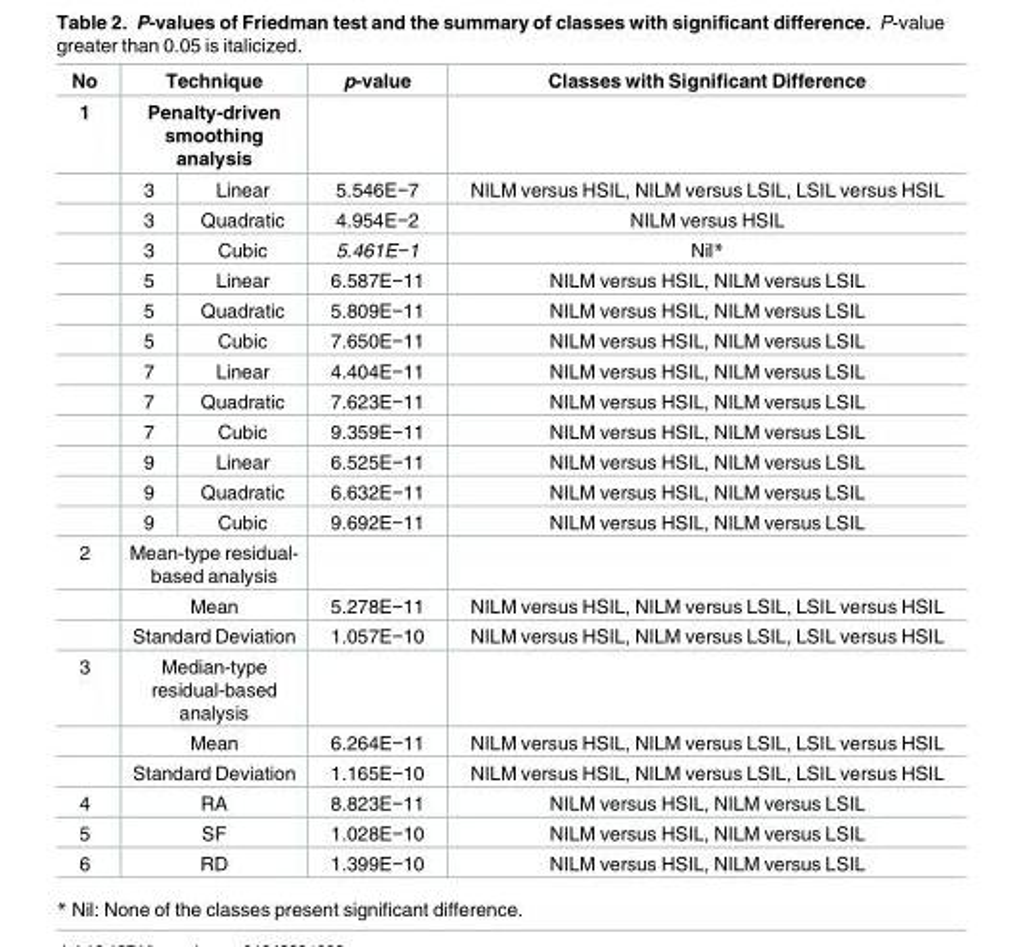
<table><thead><tr><td rowspan="3">No 1</td><td rowspan="2" colspan="2">Technique Penalty-driven smoothing analysis</td><td rowspan="3">p-value 5.546E−7</td><td rowspan="3">Classes with Significant Difference NILM versus HSIL, NILM versus LSIL, LSIL versus HSIL</td></tr><tr></tr><tr><td>3</td><td>Linear</td></tr></thead><tbody><tr><td></td><td>3</td><td>Quadratic</td><td>4.954E−2</td><td>NILM versus HSIL</td></tr><tr><td></td><td>3</td><td>Cubic</td><td>5.461E−1</td><td>Nil*</td></tr><tr><td></td><td>5</td><td>Linear</td><td>6.587E−11</td><td>NILM versus HSIL, NILM versus LSIL</td></tr><tr><td></td><td>5</td><td>Quadratic</td><td>5.809E−11</td><td>NILM versus HSIL, NILM versus LSIL</td></tr><tr><td></td><td>5</td><td>Cubic</td><td>7.650E−11</td><td>NILM versus HSIL, NILM versus LSIL</td></tr><tr><td></td><td>7</td><td>Linear</td><td>4.404E−11</td><td>NILM versus HSIL, NILM versus LSIL</td></tr><tr><td></td><td>7</td><td>Quadratic</td><td>7.623E−11</td><td>NILM versus HSIL, NILM versus LSIL</td></tr><tr><td></td><td>7</td><td>Cubic</td><td>9.359E−11</td><td>NILM versus HSIL, NILM versus LSIL</td></tr><tr><td></td><td>9</td><td>Linear</td><td>6.525E−11</td><td>NILM versus HSIL, NILM versus LSIL</td></tr><tr><td></td><td>9</td><td>Quadratic</td><td>6.632E−11</td><td>NILM versus HSIL, NILM versus LSIL</td></tr><tr><td></td><td>9</td><td>Cubic</td><td>9.692E−11</td><td>NILM versus HSIL, NILM versus LSIL</td></tr><tr><td rowspan="3">2</td><td colspan="2">Mean-type residual- based analysis</td><td></td><td></td></tr><tr><td colspan="2">Mean</td><td>5.278E−11</td><td>NILM versus HSIL, NILM versus LSIL, LSIL versus HSIL</td></tr><tr><td colspan="2">Standard Deviation</td><td>1.057E−10</td><td>NILM versus HSIL, NILM versus LSIL, LSIL versus HSIL</td></tr><tr><td rowspan="3">3</td><td colspan="2">Median-type residual-based analysis</td><td></td><td></td></tr><tr><td colspan="2">Mean</td><td>6.264E−11</td><td>NILM versus HSIL, NILM versus LSIL, LSIL versus HSIL</td></tr><tr><td colspan="2">Standard Deviation</td><td>1.165E−10</td><td>NILM versus HSIL, NILM versus LSIL, LSIL versus HSIL</td></tr><tr><td>4</td><td colspan="2">RA</td><td>8.823E−11</td><td>NILM versus HSIL, NILM versus LSIL</td></tr><tr><td>5</td><td colspan="2">SF</td><td>1.028E−10</td><td>NILM versus HSIL, NILM versus LSIL</td></tr><tr><td>6</td><td colspan="2">RD</td><td>1.399E−10</td><td>NILM versus HSIL, NILM versus LSIL</td></tr></tbody></table>